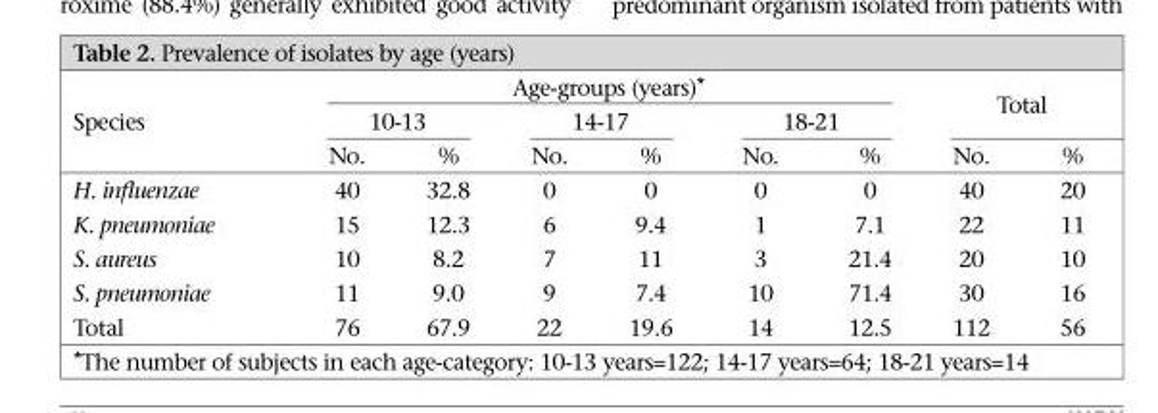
<table><thead><tr><td rowspan="3">Species</td><td colspan="6">Age-groups (years)*</td><td rowspan="2" colspan="2">Total</td></tr><tr><td colspan="2">10-13</td><td colspan="2">14-17</td><td colspan="2">18-21</td></tr><tr><td>No.</td><td>%</td><td>No.</td><td>%</td><td>No.</td><td>%</td><td>No.</td><td>%</td></tr></thead><tbody><tr><td>H. influenzae</td><td>40</td><td>32.8</td><td>0</td><td>0</td><td>0</td><td>0</td><td>40</td><td>20</td></tr><tr><td>K. pneumoniae</td><td>15</td><td>12.3</td><td>6</td><td>9.4</td><td>1</td><td>7.1</td><td>22</td><td>11</td></tr><tr><td>S. aureus</td><td>10</td><td>8.2</td><td>7</td><td>11</td><td>3</td><td>21.4</td><td>20</td><td>10</td></tr><tr><td>S. pneumoniae</td><td>11</td><td>9.0</td><td>9</td><td>7.4</td><td>10</td><td>71.4</td><td>30</td><td>16</td></tr><tr><td>Total</td><td>76</td><td>67.9</td><td>22</td><td>19.6</td><td>14</td><td>12.5</td><td>112</td><td>56</td></tr></tbody></table>